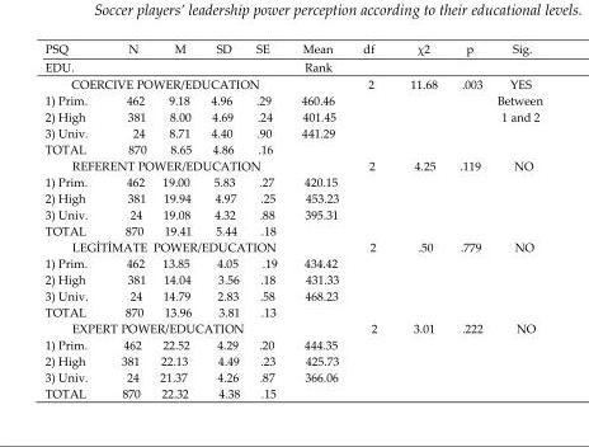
<table><thead><tr><td rowspan="2">PSQ EDU.</td><td rowspan="2">N</td><td rowspan="2">M</td><td rowspan="2">SD</td><td rowspan="2">SE</td><td rowspan="2">Mean Rank</td><td rowspan="2">df</td><td rowspan="2">χ<sup>2</sup></td><td rowspan="2">p</td><td rowspan="2">Sig.</td></tr><tr></tr></thead><tbody><tr><td colspan="5">COERCIVE POWER/EDUCATION</td><td></td><td>2</td><td>11.68</td><td>.003</td><td>YES</td></tr><tr><td>1) Prim.</td><td>462</td><td>9.18</td><td>4.96</td><td>.29</td><td>460.46</td><td></td><td></td><td></td><td rowspan="3">Between 1 and 2</td></tr><tr><td>2) High</td><td>381</td><td>8.00</td><td>4.69</td><td>.24</td><td>401.45</td><td></td><td></td><td></td></tr><tr><td>3) Univ.</td><td>24</td><td>8.71</td><td>4.40</td><td>.90</td><td>441.29</td><td></td><td></td><td></td></tr><tr><td>TOTAL</td><td>870</td><td>8.65</td><td>4.86</td><td>.16</td><td></td><td></td><td></td><td></td><td></td></tr><tr><td colspan="5">REFERENT POWER/EDUCATION</td><td></td><td>2</td><td>4.25</td><td>.119</td><td>NO</td></tr><tr><td>1) Prim.</td><td>462</td><td>19.00</td><td>5.83</td><td>.27</td><td>420.15</td><td></td><td></td><td></td><td></td></tr><tr><td>2) High</td><td>381</td><td>19.94</td><td>4.97</td><td>.25</td><td>453.23</td><td></td><td></td><td></td><td></td></tr><tr><td>3) Univ.</td><td>24</td><td>19.08</td><td>4.32</td><td>.88</td><td>395.31</td><td></td><td></td><td></td><td></td></tr><tr><td>TOTAL</td><td>870</td><td>19.41</td><td>5.44</td><td>.18</td><td></td><td></td><td></td><td></td><td></td></tr><tr><td colspan="5">LEGİTİMATE POWER/EDUCATION</td><td></td><td>2</td><td>.50</td><td>.779</td><td>NO</td></tr><tr><td>1) Prim.</td><td>462</td><td>13.85</td><td>4.05</td><td>.19</td><td>434.42</td><td></td><td></td><td></td><td></td></tr><tr><td>2) High</td><td>381</td><td>14.04</td><td>3.56</td><td>.18</td><td>431.33</td><td></td><td></td><td></td><td></td></tr><tr><td>3) Univ.</td><td>24</td><td>14.79</td><td>2.83</td><td>.58</td><td>468.23</td><td></td><td></td><td></td><td></td></tr><tr><td>TOTAL</td><td>870</td><td>13.96</td><td>3.81</td><td>.13</td><td></td><td></td><td></td><td></td><td></td></tr><tr><td colspan="5">EXPERT POWER/EDUCATION</td><td></td><td>2</td><td>3.01</td><td>.222</td><td>NO</td></tr><tr><td>1) Prim.</td><td>462</td><td>22.52</td><td>4.29</td><td>.20</td><td>444.35</td><td></td><td></td><td></td><td></td></tr><tr><td>2) High</td><td>381</td><td>22.13</td><td>4.49</td><td>.23</td><td>425.73</td><td></td><td></td><td></td><td></td></tr><tr><td>3) Univ.</td><td>24</td><td>21.37</td><td>4.26</td><td>.87</td><td>366.06</td><td></td><td></td><td></td><td></td></tr><tr><td>TOTAL</td><td>870</td><td>22.32</td><td>4.38</td><td>.15</td><td></td><td></td><td></td><td></td><td></td></tr></tbody></table>